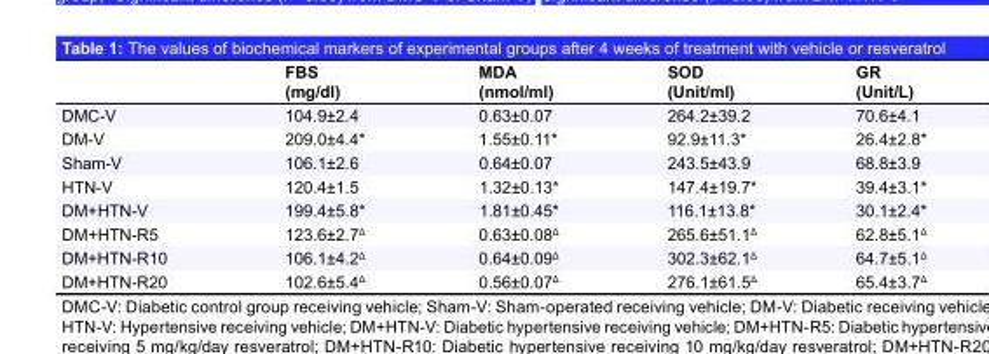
<table><thead><tr><td></td><td>FBS (mg/dl)</td><td>MDA (nmol/ml)</td><td>SOD (Unit/ml)</td><td>GR (Unit/L)</td></tr></thead><tbody><tr><td>DMC-V</td><td>104.9±2.4</td><td>0.63±0.07</td><td>264.2±39.2</td><td>70.6±4.1</td></tr><tr><td>DM-V</td><td>209.0±4.4*</td><td>1.55±0.11*</td><td>92.9±11.3*</td><td>26.4±2.8*</td></tr><tr><td>Sham-V</td><td>106.1±2.6</td><td>0.64±0.07</td><td>243.5±43.9</td><td>68.8±3.9</td></tr><tr><td>HTN-V</td><td>120.4±1.5</td><td>1.32±0.13*</td><td>147.4±19.7*</td><td>39.4±3.1*</td></tr><tr><td>DM+HTN-V</td><td>199.4±5.8*</td><td>1.81±0.45*</td><td>116.1±13.8*</td><td>30.1±2.4*</td></tr><tr><td>DM+HTN-R5</td><td>123.6±2.7<sup>Δ</sup></td><td>0.63±0.08<sup>Δ</sup></td><td>265.6±51.1<sup>Δ</sup></td><td>62.8±5.1<sup>Δ</sup></td></tr><tr><td>DM+HTN-R10</td><td>106.1±4.2<sup>Δ</sup></td><td>0.64±0.09<sup>Δ</sup></td><td>302.3±62.1<sup>Δ</sup></td><td>64.7±5.1<sup>Δ</sup></td></tr><tr><td>DM+HTN-R20</td><td>102.6±5.4<sup>Δ</sup></td><td>0.56±0.07<sup>Δ</sup></td><td>276.1±61.5<sup>Δ</sup></td><td>65.4±3.7<sup>Δ</sup></td></tr></tbody></table>